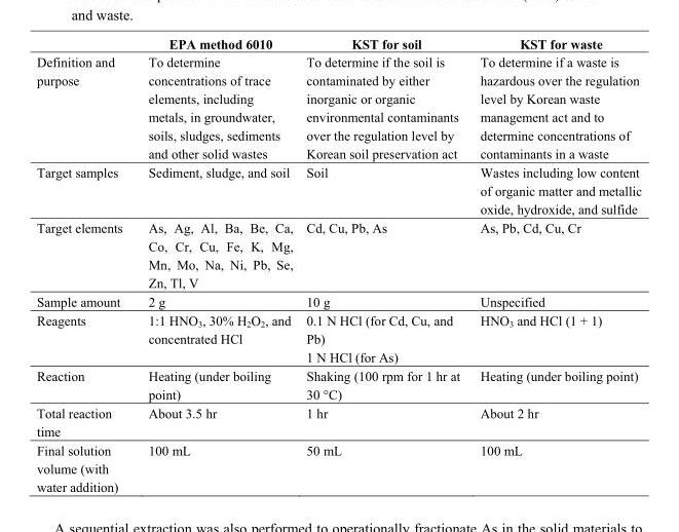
<table><thead><tr><td></td><td>EPA method 6010</td><td>KST for soil</td><td>KST for waste</td></tr></thead><tbody><tr><td>Definition and purpose</td><td>To determine concentrations of trace elements, including metals, in groundwater, soils, sludges, sediments and other solid wastes</td><td>To determine if the soil is contaminated by either inorganic or organic environmental contaminants over the regulation level by Korean soil preservation act</td><td>To determine if a waste is hazardous over the regulation level by Korean waste management act and to determine concentrations of contaminants in a waste</td></tr><tr><td>Target samples</td><td>Sediment, sludge, and soil</td><td>Soil</td><td>Wastes including low content of organic matter and metallic oxide, hydroxide, and sulfide</td></tr><tr><td>Target elements</td><td>As, Ag, Al, Ba, Be, Ca, Co, Cr, Cu, Fe, K, Mg, Mn, Mo, Na, Ni, Pb, Se, Zn, Tl, V</td><td>Cd, Cu, Pb, As</td><td>As, Pb, Cd, Cu, Cr</td></tr><tr><td>Sample amount</td><td>2 g</td><td>10 g</td><td>Unspecified</td></tr><tr><td>Reagents</td><td>1:1 HNO<sub>3</sub>, 30% H<sub>2</sub>O<sub>2</sub>, and concentrated HCl</td><td>0.1 N HCl (for Cd, Cu, and Pb) 1 N HCl (for As)</td><td>HNO<sub>3</sub> and HCl (1 + 1)</td></tr><tr><td>Reaction</td><td>Heating (under boiling point)</td><td>Shaking (100 rpm for 1 hr at 30 °C)</td><td>Heating (under boiling point)</td></tr><tr><td>Total reaction time</td><td>About 3.5 hr</td><td>1 hr</td><td>About 2 hr</td></tr><tr><td>Final solution volume (with water addition)</td><td>100 mL</td><td>50 mL</td><td>100 mL</td></tr></tbody></table>